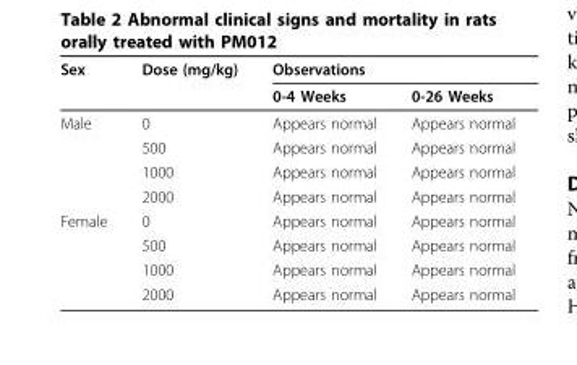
<table><thead><tr><td rowspan="2">Sex</td><td rowspan="2">Dose (mg/kg)</td><td colspan="2">Observations</td></tr><tr><td>0-4 Weeks</td><td>0-26 Weeks</td></tr></thead><tbody><tr><td rowspan="4">Male</td><td>0</td><td>Appears normal</td><td>Appears normal</td></tr><tr><td>500</td><td>Appears normal</td><td>Appears normal</td></tr><tr><td>1000</td><td>Appears normal</td><td>Appears normal</td></tr><tr><td>2000</td><td>Appears normal</td><td>Appears normal</td></tr><tr><td rowspan="4">Female</td><td>0</td><td>Appears normal</td><td>Appears normal</td></tr><tr><td>500</td><td>Appears normal</td><td>Appears normal</td></tr><tr><td>1000</td><td>Appears normal</td><td>Appears normal</td></tr><tr><td>2000</td><td>Appears normal</td><td>Appears normal</td></tr></tbody></table>